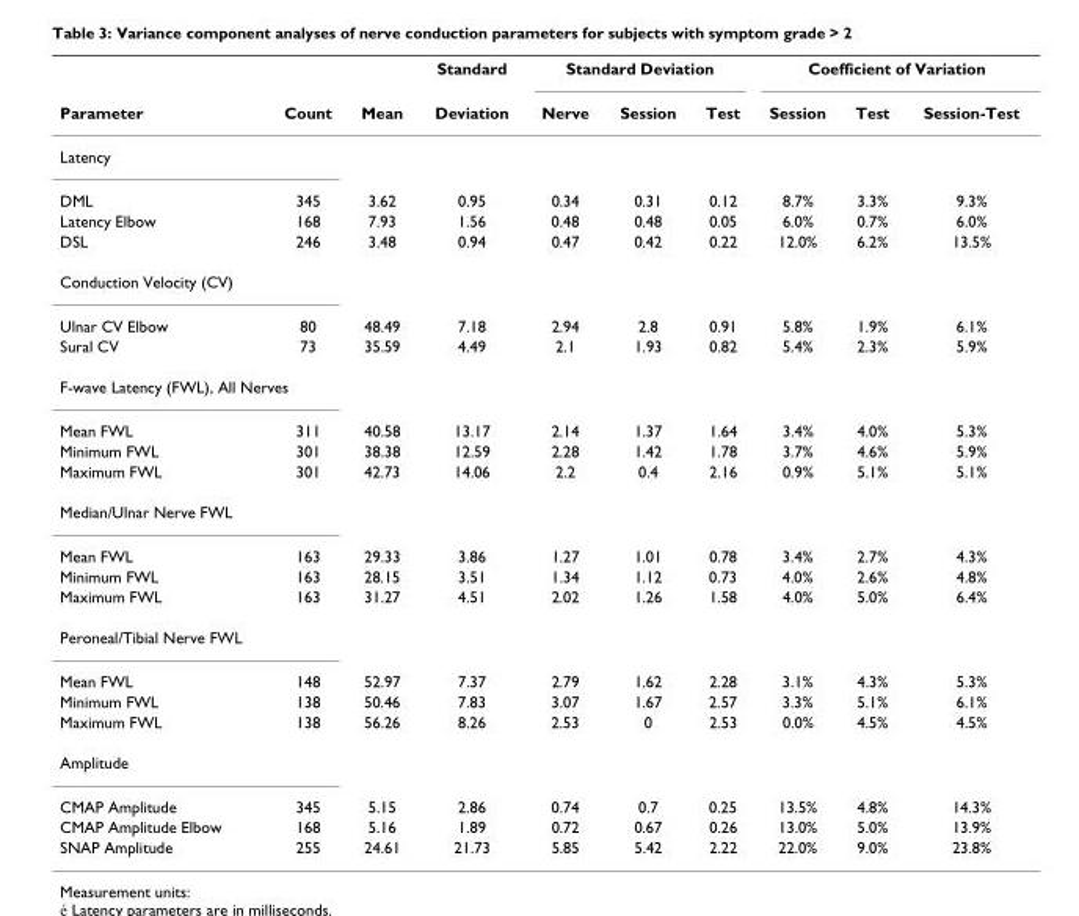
<table><thead><tr><td rowspan="2">Parameter</td><td rowspan="2">Count</td><td rowspan="2">Mean</td><td rowspan="2">Standard Deviation</td><td colspan="3">Standard Deviation</td><td colspan="3">Coefficient of Variation</td></tr><tr><td>Nerve</td><td>Session</td><td>Test</td><td>Session</td><td>Test</td><td>Session-Test</td></tr></thead><tbody><tr><td colspan="10">Latency</td></tr><tr><td>DML</td><td>345</td><td>3.62</td><td>0.95</td><td>0.34</td><td>0.31</td><td>0.12</td><td>8.7%</td><td>3.3%</td><td>9.3%</td></tr><tr><td>Latency Elbow</td><td>168</td><td>7.93</td><td>1.56</td><td>0.48</td><td>0.48</td><td>0.05</td><td>6.0%</td><td>0.7%</td><td>6.0%</td></tr><tr><td>DSL</td><td>246</td><td>3.48</td><td>0.94</td><td>0.47</td><td>0.42</td><td>0.22</td><td>12.0%</td><td>6.2%</td><td>13.5%</td></tr><tr><td colspan="10">Conduction Velocity (CV)</td></tr><tr><td>Ulnar CV Elbow</td><td>80</td><td>48.49</td><td>7.18</td><td>2.94</td><td>2.8</td><td>0.91</td><td>5.8%</td><td>1.9%</td><td>6.1%</td></tr><tr><td>Sural CV</td><td>73</td><td>35.59</td><td>4.49</td><td>2.1</td><td>1.93</td><td>0.82</td><td>5.4%</td><td>2.3%</td><td>5.9%</td></tr><tr><td colspan="10">F-wave Latency (FWL), All Nerves</td></tr><tr><td>Mean FWL</td><td>311</td><td>40.58</td><td>13.17</td><td>2.14</td><td>1.37</td><td>1.64</td><td>3.4%</td><td>4.0%</td><td>5.3%</td></tr><tr><td>Minimum FWL</td><td>301</td><td>38.38</td><td>12.59</td><td>2.28</td><td>1.42</td><td>1.78</td><td>3.7%</td><td>4.6%</td><td>5.9%</td></tr><tr><td>Maximum FWL</td><td>301</td><td>42.73</td><td>14.06</td><td>2.2</td><td>0.4</td><td>2.16</td><td>0.9%</td><td>5.1%</td><td>5.1%</td></tr><tr><td colspan="10">Median/Ulnar Nerve FWL</td></tr><tr><td>Mean FWL</td><td>163</td><td>29.33</td><td>3.86</td><td>1.27</td><td>1.01</td><td>0.78</td><td>3.4%</td><td>2.7%</td><td>4.3%</td></tr><tr><td>Minimum FWL</td><td>163</td><td>28.15</td><td>3.51</td><td>1.34</td><td>1.12</td><td>0.73</td><td>4.0%</td><td>2.6%</td><td>4.8%</td></tr><tr><td>Maximum FWL</td><td>163</td><td>31.27</td><td>4.51</td><td>2.02</td><td>1.26</td><td>1.58</td><td>4.0%</td><td>5.0%</td><td>6.4%</td></tr><tr><td colspan="10">Peroneal/Tibial Nerve FWL</td></tr><tr><td>Mean FWL</td><td>148</td><td>52.97</td><td>7.37</td><td>2.79</td><td>1.62</td><td>2.28</td><td>3.1%</td><td>4.3%</td><td>5.3%</td></tr><tr><td>Minimum FWL</td><td>138</td><td>50.46</td><td>7.83</td><td>3.07</td><td>1.67</td><td>2.57</td><td>3.3%</td><td>5.1%</td><td>6.1%</td></tr><tr><td>Maximum FWL</td><td>138</td><td>56.26</td><td>8.26</td><td>2.53</td><td>0</td><td>2.53</td><td>0.0%</td><td>4.5%</td><td>4.5%</td></tr><tr><td colspan="10">Amplitude</td></tr><tr><td>CMAP Amplitude</td><td>345</td><td>5.15</td><td>2.86</td><td>0.74</td><td>0.7</td><td>0.25</td><td>13.5%</td><td>4.8%</td><td>14.3%</td></tr><tr><td>CMAP Amplitude Elbow</td><td>168</td><td>5.16</td><td>1.89</td><td>0.72</td><td>0.67</td><td>0.26</td><td>13.0%</td><td>5.0%</td><td>13.9%</td></tr><tr><td>SNAP Amplitude</td><td>255</td><td>24.61</td><td>21.73</td><td>5.85</td><td>5.42</td><td>2.22</td><td>22.0%</td><td>9.0%</td><td>23.8%</td></tr></tbody></table>